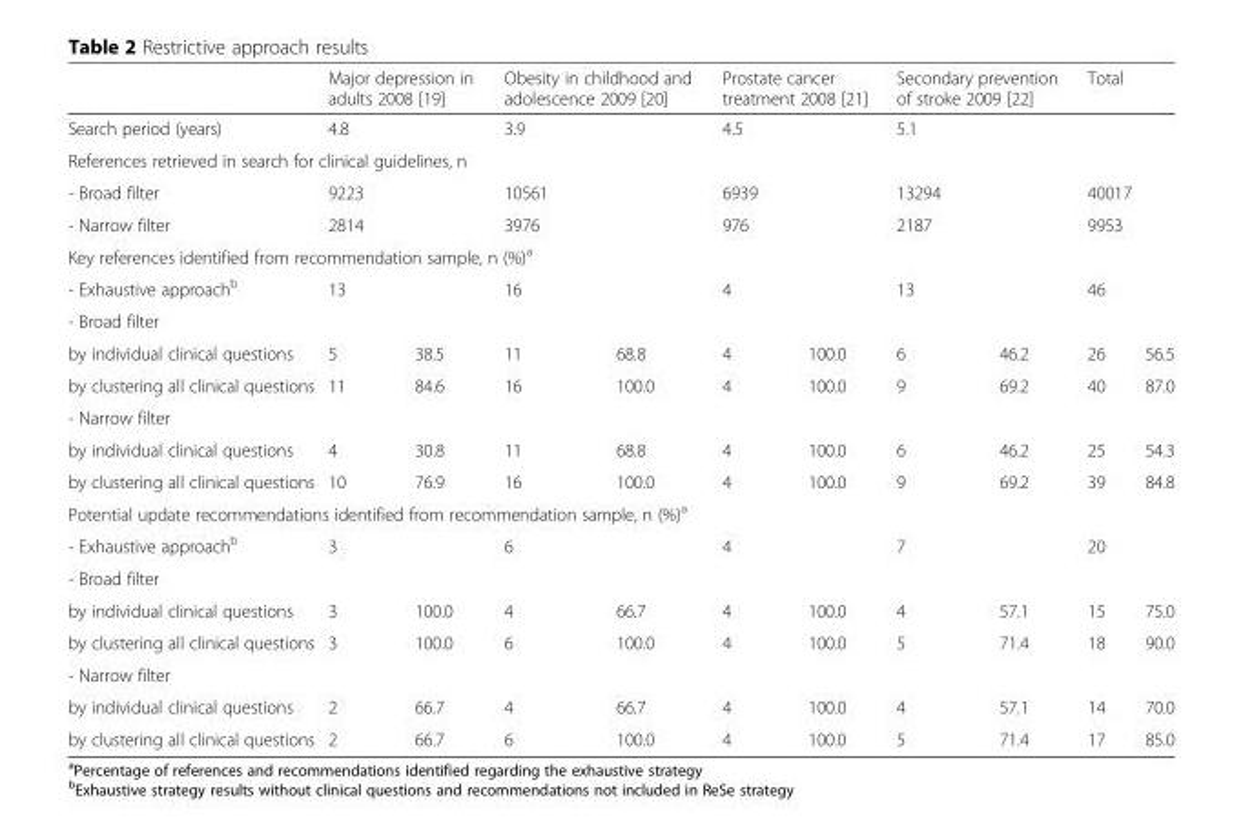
<table><thead><tr><td rowspan="2">Search period (years)</td><td colspan="2">Major depression in adults 2008 [19]</td><td colspan="2">Obesity in childhood and adolescence 2009 [20]</td><td colspan="2">Prostate cancer treatment 2008 [21]</td><td colspan="2">Secondary prevention of stroke 2009 [22]</td><td colspan="2">Total</td></tr><tr><td>4.8</td><td></td><td>3.9</td><td></td><td>4.5</td><td></td><td>5.1</td><td></td><td></td><td></td></tr></thead><tbody><tr><td colspan="11">References retrieved in search for clinical guidelines, n</td></tr><tr><td>- Broad filter</td><td>9223</td><td></td><td>10561</td><td></td><td>6939</td><td></td><td>13294</td><td></td><td>40017</td><td></td></tr><tr><td>- Narrow filter</td><td>2814</td><td></td><td>3976</td><td></td><td>976</td><td></td><td>2187</td><td></td><td>9953</td><td></td></tr><tr><td colspan="11">Key references identified from recommendation sample, n (%)<sup>a</sup></td></tr><tr><td>- Exhaustive approach<sup>b</sup></td><td>13</td><td></td><td>16</td><td></td><td>4</td><td></td><td>13</td><td></td><td>46</td><td></td></tr><tr><td colspan="11">- Broad filter</td></tr><tr><td>by individual clinical questions</td><td>5</td><td>38.5</td><td>11</td><td>68.8</td><td>4</td><td>100.0</td><td>6</td><td>46.2</td><td>26</td><td>56.5</td></tr><tr><td>by clustering all clinical questions</td><td>11</td><td>84.6</td><td>16</td><td>100.0</td><td>4</td><td>100.0</td><td>9</td><td>69.2</td><td>40</td><td>87.0</td></tr><tr><td colspan="11">- Narrow filter</td></tr><tr><td>by individual clinical questions</td><td>4</td><td>30.8</td><td>11</td><td>68.8</td><td>4</td><td>100.0</td><td>6</td><td>46.2</td><td>25</td><td>54.3</td></tr><tr><td>by clustering all clinical questions</td><td>10</td><td>76.9</td><td>16</td><td>100.0</td><td>4</td><td>100.0</td><td>9</td><td>69.2</td><td>39</td><td>84.8</td></tr><tr><td colspan="11">Potential update recommendations identified from recommendation sample, n (%)<sup>a</sup></td></tr><tr><td>- Exhaustive approach<sup>b</sup></td><td>3</td><td></td><td>6</td><td></td><td>4</td><td></td><td>7</td><td></td><td>20</td><td></td></tr><tr><td colspan="11">- Broad filter</td></tr><tr><td>by individual clinical questions</td><td>3</td><td>100.0</td><td>4</td><td>66.7</td><td>4</td><td>100.0</td><td>4</td><td>57.1</td><td>15</td><td>75.0</td></tr><tr><td>by clustering all clinical questions</td><td>3</td><td>100.0</td><td>6</td><td>100.0</td><td>4</td><td>100.0</td><td>5</td><td>71.4</td><td>18</td><td>90.0</td></tr><tr><td colspan="11">- Narrow filter</td></tr><tr><td>by individual clinical questions</td><td>2</td><td>66.7</td><td>4</td><td>66.7</td><td>4</td><td>100.0</td><td>4</td><td>57.1</td><td>14</td><td>70.0</td></tr><tr><td>by clustering all clinical questions</td><td>2</td><td>66.7</td><td>6</td><td>100.0</td><td>4</td><td>100.0</td><td>5</td><td>71.4</td><td>17</td><td>85.0</td></tr></tbody></table>